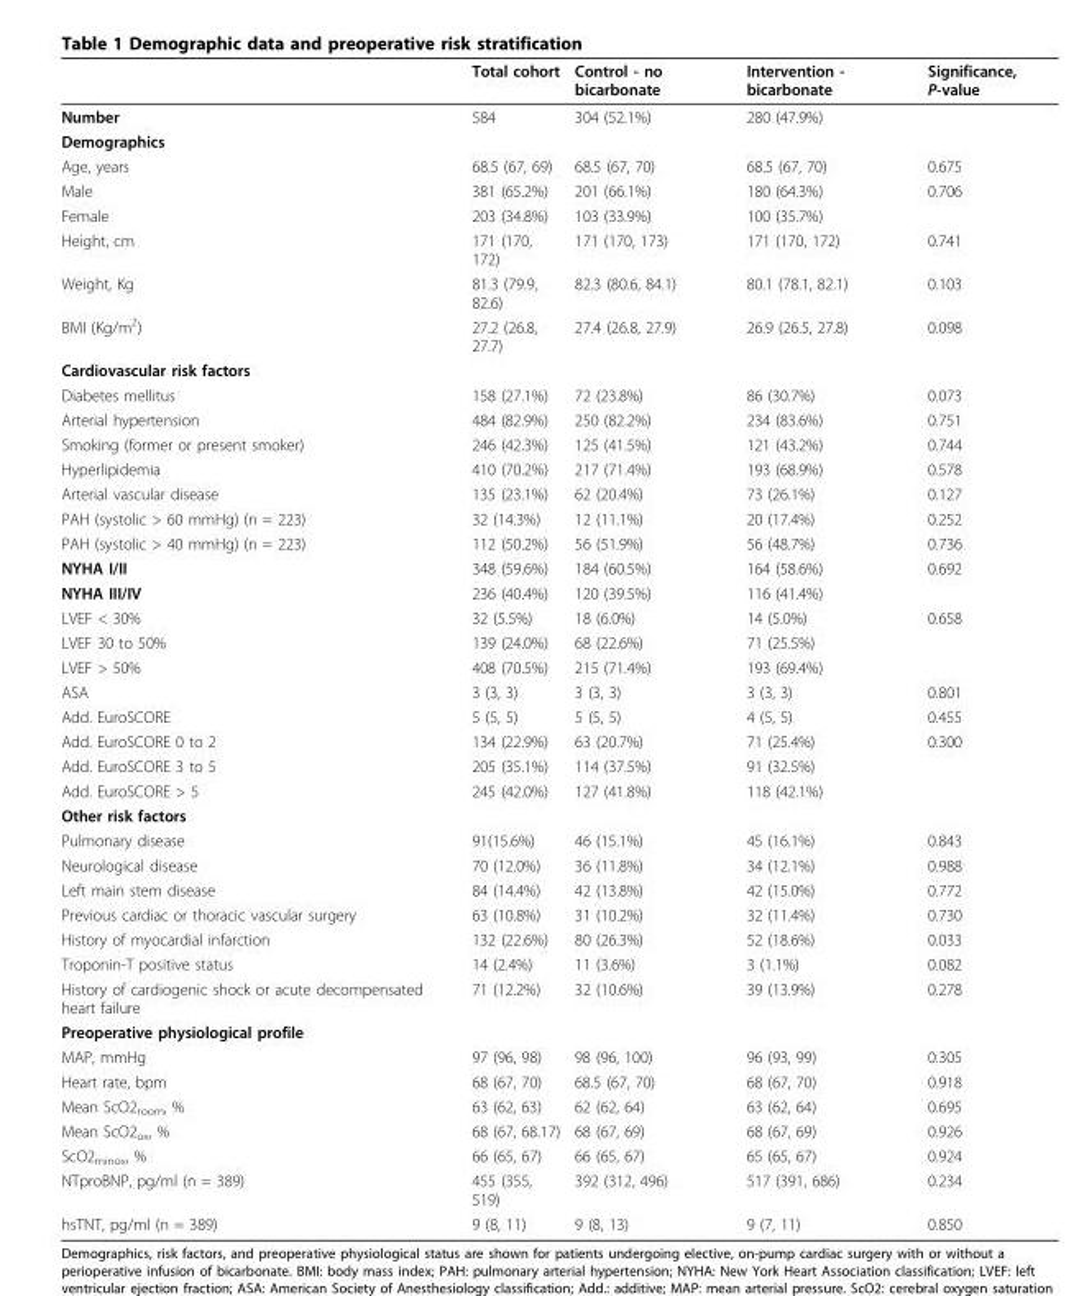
<table><thead><tr><td></td><td>Total cohort</td><td>Control - no bicarbonate</td><td>Intervention - bicarbonate</td><td>Significance, P-value</td></tr></thead><tbody><tr><td>Number</td><td>584</td><td>304 (52.1%)</td><td>280 (47.9%)</td><td></td></tr><tr><td colspan="5">Demographics</td></tr><tr><td>Age, years</td><td>68.5 (67, 69)</td><td>68.5 (67, 70)</td><td>68.5 (67, 70)</td><td>0.675</td></tr><tr><td>Male</td><td>381 (65.2%)</td><td>201 (66.1%)</td><td>180 (64.3%)</td><td>0.706</td></tr><tr><td>Female</td><td>203 (34.8%)</td><td>103 (33.9%)</td><td>100 (35.7%)</td><td></td></tr><tr><td>Height, cm</td><td>171 (170, 172)</td><td>171 (170, 173)</td><td>171 (170, 172)</td><td>0.741</td></tr><tr><td>Weight, Kg</td><td>81.3 (79.9, 82.6)</td><td>82.3 (80.6, 84.1)</td><td>80.1 (78.1, 82.1)</td><td>0.103</td></tr><tr><td>BMI (Kg/m<sup>2</sup>)</td><td>27.2 (26.8, 27.7)</td><td>27.4 (26.8, 27.9)</td><td>26.9 (26.5, 27.8)</td><td>0.098</td></tr><tr><td colspan="5">Cardiovascular risk factors</td></tr><tr><td>Diabetes mellitus</td><td>158 (27.1%)</td><td>72 (23.8%)</td><td>86 (30.7%)</td><td>0.073</td></tr><tr><td>Arterial hypertension</td><td>484 (82.9%)</td><td>250 (82.2%)</td><td>234 (83.6%)</td><td>0.751</td></tr><tr><td>Smoking (former or present smoker)</td><td>246 (42.3%)</td><td>125 (41.5%)</td><td>121 (43.2%)</td><td>0.744</td></tr><tr><td>Hyperlipidemia</td><td>410 (70.2%)</td><td>217 (71.4%)</td><td>193 (68.9%)</td><td>0.578</td></tr><tr><td>Arterial vascular disease</td><td>135 (23.1%)</td><td>62 (20.4%)</td><td>73 (26.1%)</td><td>0.127</td></tr><tr><td>PAH (systolic &gt; 60 mmHg) (n = 223)</td><td>32 (14.3%)</td><td>12 (11.1%)</td><td>20 (17.4%)</td><td>0.252</td></tr><tr><td>PAH (systolic &gt; 40 mmHg) (n = 223)</td><td>112 (50.2%)</td><td>56 (51.9%)</td><td>56 (48.7%)</td><td>0.736</td></tr><tr><td>NYHA I/II</td><td>348 (59.6%)</td><td>184 (60.5%)</td><td>164 (58.6%)</td><td>0.692</td></tr><tr><td>NYHA III/IV</td><td>236 (40.4%)</td><td>120 (39.5%)</td><td>116 (41.4%)</td><td></td></tr><tr><td>LVEF &lt; 30%</td><td>32 (5.5%)</td><td>18 (6.0%)</td><td>14 (5.0%)</td><td>0.658</td></tr><tr><td>LVEF 30 to 50%</td><td>139 (24.0%)</td><td>68 (22.6%)</td><td>71 (25.5%)</td><td></td></tr><tr><td>LVEF &gt; 50%</td><td>408 (70.5%)</td><td>215 (71.4%)</td><td>193 (69.4%)</td><td></td></tr><tr><td>ASA</td><td>3 (3, 3)</td><td>3 (3, 3)</td><td>3 (3, 3)</td><td>0.801</td></tr><tr><td>Add. EuroSCORE</td><td>5 (5, 5)</td><td>5 (5, 5)</td><td>4 (5, 5)</td><td>0.455</td></tr><tr><td>Add. EuroSCORE 0 to 2</td><td>134 (22.9%)</td><td>63 (20.7%)</td><td>71 (25.4%)</td><td>0.300</td></tr><tr><td>Add. EuroSCORE 3 to 5</td><td>205 (35.1%)</td><td>114 (37.5%)</td><td>91 (32.5%)</td><td></td></tr><tr><td>Add. EuroSCORE &gt; 5</td><td>245 (42.0%)</td><td>127 (41.8%)</td><td>118 (42.1%)</td><td></td></tr><tr><td colspan="5">Other risk factors</td></tr><tr><td>Pulmonary disease</td><td>91(15.6%)</td><td>46 (15.1%)</td><td>45 (16.1%)</td><td>0.843</td></tr><tr><td>Neurological disease</td><td>70 (12.0%)</td><td>36 (11.8%)</td><td>34 (12.1%)</td><td>0.988</td></tr><tr><td>Left main stem disease</td><td>84 (14.4%)</td><td>42 (13.8%)</td><td>42 (15.0%)</td><td>0.772</td></tr><tr><td>Previous cardiac or thoracic vascular surgery</td><td>63 (10.8%)</td><td>31 (10.2%)</td><td>32 (11.4%)</td><td>0.730</td></tr><tr><td>History of myocardial infarction</td><td>132 (22.6%)</td><td>80 (26.3%)</td><td>52 (18.6%)</td><td>0.033</td></tr><tr><td>Troponin-T positive status</td><td>14 (2.4%)</td><td>11 (3.6%)</td><td>3 (1.1%)</td><td>0.082</td></tr><tr><td>History of cardiogenic shock or acute decompensated heart failure</td><td>71 (12.2%)</td><td>32 (10.6%)</td><td>39 (13.9%)</td><td>0.278</td></tr><tr><td colspan="5">Preoperative physiological profile</td></tr><tr><td>MAP, mmHg</td><td>97 (96, 98)</td><td>98 (96, 100)</td><td>96 (93, 99)</td><td>0.305</td></tr><tr><td>Heart rate, bpm</td><td>68 (67, 70)</td><td>68.5 (67, 70)</td><td>68 (67, 70)</td><td>0.918</td></tr><tr><td>Mean ScO2<sub>room</sub>, %</td><td>63 (62, 63)</td><td>62 (62, 64)</td><td>63 (62, 64)</td><td>0.695</td></tr><tr><td>Mean ScO2<sub>ox</sub>, %</td><td>68 (67, 68.17)</td><td>68 (67, 69)</td><td>68 (67, 69)</td><td>0.926</td></tr><tr><td>ScO2<sub>minox</sub>, %</td><td>66 (65, 67)</td><td>66 (65, 67)</td><td>65 (65, 67)</td><td>0.924</td></tr><tr><td>NTproBNP, pg/ml (n = 389)</td><td>455 (355, 519)</td><td>392 (312, 496)</td><td>517 (391, 686)</td><td>0.234</td></tr><tr><td>hsTNT, pg/ml (n = 389)</td><td>9 (8, 11)</td><td>9 (8, 13)</td><td>9 (7, 11)</td><td>0.850</td></tr></tbody></table>